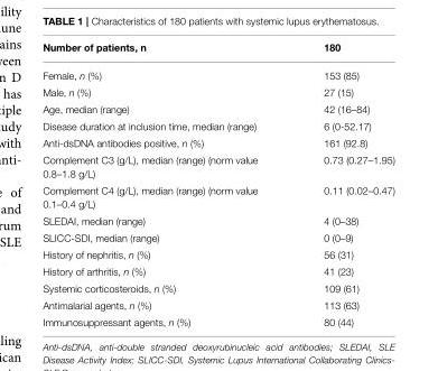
<table><thead><tr><td>Number of patients, n</td><td>180</td></tr></thead><tbody><tr><td>Female, n (%)</td><td>153 (85)</td></tr><tr><td>Male, n (%)</td><td>27 (15)</td></tr><tr><td>Age, median (range)</td><td>42 (16–84)</td></tr><tr><td>Disease duration at inclusion time, median (range)</td><td>6 (0-52.17)</td></tr><tr><td>Anti-dsDNA antibodies positive, n (%)</td><td>161 (92.8)</td></tr><tr><td>Complement C3 (g/L), median (range) (norm value 0.8–1.8 g/L)</td><td>0.73 (0.27–1.95)</td></tr><tr><td>Complement C4 (g/L), median (range) (norm value 0.1–0.4 g/L)</td><td>0.11 (0.02–0.47)</td></tr><tr><td>SLEDAI, median (range)</td><td>4 (0–38)</td></tr><tr><td>SLICC-SDI, median (range)</td><td>0 (0–9)</td></tr><tr><td>History of nephritis, n (%)</td><td>56 (31)</td></tr><tr><td>History of arthritis, n (%)</td><td>41 (23)</td></tr><tr><td>Systemic corticosteroids, n (%)</td><td>109 (61)</td></tr><tr><td>Antimalarial agents, n (%)</td><td>113 (63)</td></tr><tr><td>Immunosuppressant agents, n (%)</td><td>80 (44)</td></tr></tbody></table>